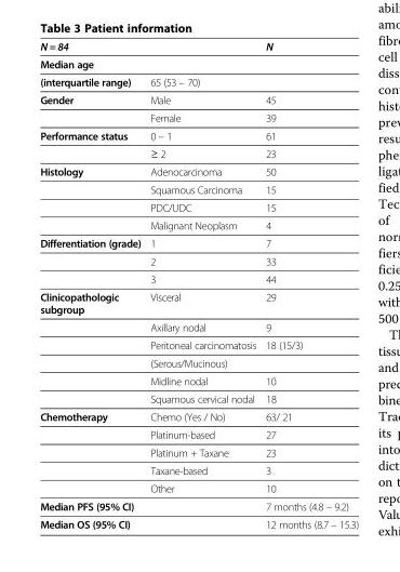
<table><thead><tr><td>N = 84</td><td></td><td>N</td></tr></thead><tbody><tr><td colspan="3">Median age</td></tr><tr><td>(interquartile range)</td><td>65 (53 – 70)</td><td></td></tr><tr><td rowspan="2">Gender</td><td>Male</td><td>45</td></tr><tr><td>Female</td><td>39</td></tr><tr><td rowspan="2">Performance status</td><td>0 – 1</td><td>61</td></tr><tr><td>≥ 2</td><td>23</td></tr><tr><td rowspan="4">Histology</td><td>Adenocarcinoma</td><td>50</td></tr><tr><td>Squamous Carcinoma</td><td>15</td></tr><tr><td>PDC/UDC</td><td>15</td></tr><tr><td>Malignant Neoplasm</td><td>4</td></tr><tr><td rowspan="3">Differentiation (grade)</td><td>1</td><td>7</td></tr><tr><td>2</td><td>33</td></tr><tr><td>3</td><td>44</td></tr><tr><td rowspan="6">Clinicopathologic subgroup</td><td>Visceral</td><td>29</td></tr><tr><td>Axillary nodal</td><td>9</td></tr><tr><td>Peritoneal carcinomatosis</td><td>18 (15/3)</td></tr><tr><td>(Serous/Mucinous)</td><td></td></tr><tr><td>Midline nodal</td><td>10</td></tr><tr><td>Squamous cervical nodal</td><td>18</td></tr><tr><td rowspan="5">Chemotherapy</td><td>Chemo (Yes / No)</td><td>63/ 21</td></tr><tr><td>Platinum-based</td><td>27</td></tr><tr><td>Platinum + Taxane</td><td>23</td></tr><tr><td>Taxane-based</td><td>3</td></tr><tr><td>Other</td><td>10</td></tr><tr><td>Median PFS (95% CI)</td><td></td><td>7 months (4.8 – 9.2)</td></tr><tr><td>Median OS (95% CI)</td><td></td><td>12 months (8.7 – 15.3)</td></tr></tbody></table>